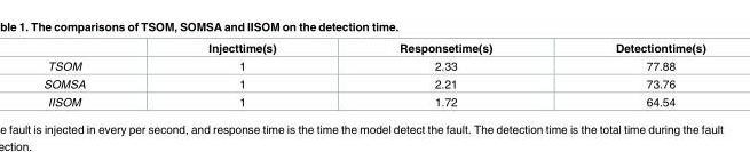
<table><thead><tr><td></td><td>Injecttime(s)</td><td>Responsetime(s)</td><td>Detectiontime(s)</td></tr></thead><tbody><tr><td>TSOM</td><td>1</td><td>2.33</td><td>77.88</td></tr><tr><td>SOMSA</td><td>1</td><td>2.21</td><td>73.76</td></tr><tr><td>IISOM</td><td>1</td><td>1.72</td><td>64.54</td></tr></tbody></table>